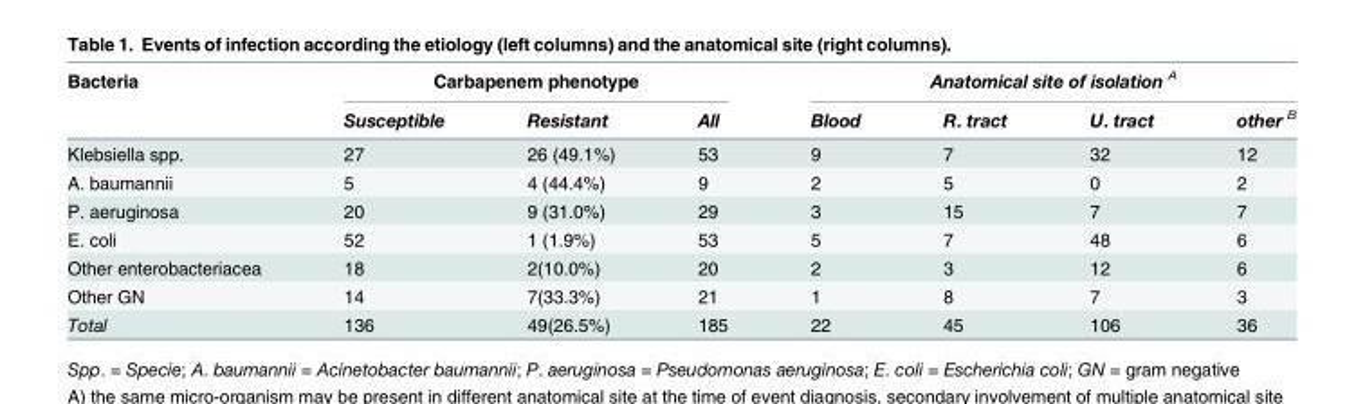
<table><thead><tr><td rowspan="2">Bacteria</td><td colspan="3">Carbapenem phenotype</td><td colspan="4">Anatomical site of isolation <sup>A</sup></td></tr><tr><td>Susceptible</td><td>Resistant</td><td>All</td><td>Blood</td><td>R. tract</td><td>U. tract</td><td>other <sup>B</sup></td></tr></thead><tbody><tr><td>Klebsiella spp.</td><td>27</td><td>26 (49.1%)</td><td>53</td><td>9</td><td>7</td><td>32</td><td>12</td></tr><tr><td>A. baumannii</td><td>5</td><td>4 (44.4%)</td><td>9</td><td>2</td><td>5</td><td>0</td><td>2</td></tr><tr><td>P. aeruginosa</td><td>20</td><td>9 (31.0%)</td><td>29</td><td>3</td><td>15</td><td>7</td><td>7</td></tr><tr><td>E. coli</td><td>52</td><td>1 (1.9%)</td><td>53</td><td>5</td><td>7</td><td>48</td><td>6</td></tr><tr><td>Other enterobacteriacea</td><td>18</td><td>2(10.0%)</td><td>20</td><td>2</td><td>3</td><td>12</td><td>6</td></tr><tr><td>Other GN</td><td>14</td><td>7(33.3%)</td><td>21</td><td>1</td><td>8</td><td>7</td><td>3</td></tr><tr><td>Total</td><td>136</td><td>49(26.5%)</td><td>185</td><td>22</td><td>45</td><td>106</td><td>36</td></tr></tbody></table>